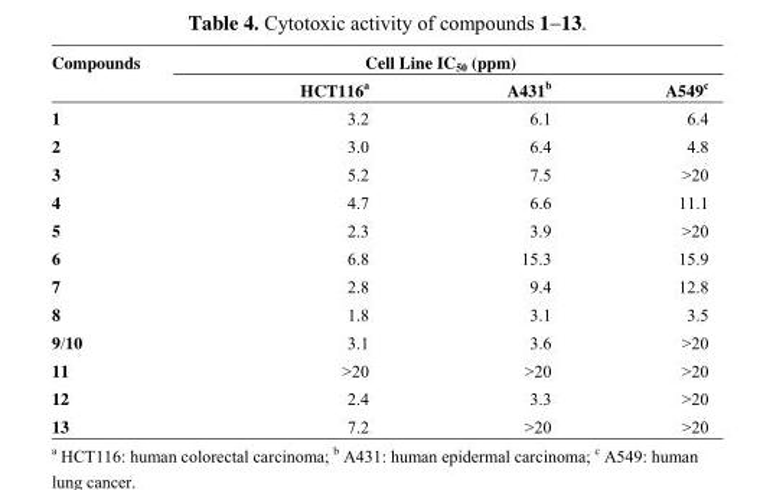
<table><thead><tr><td rowspan="2">Compounds</td><td colspan="3">Cell Line IC<sub>50</sub> (ppm)</td></tr><tr><td>HCT116<sup>a</sup></td><td>A431<sup>b</sup></td><td>A549<sup>c</sup></td></tr></thead><tbody><tr><td>1</td><td>3.2</td><td>6.1</td><td>6.4</td></tr><tr><td>2</td><td>3.0</td><td>6.4</td><td>4.8</td></tr><tr><td>3</td><td>5.2</td><td>7.5</td><td>&gt;20</td></tr><tr><td>4</td><td>4.7</td><td>6.6</td><td>11.1</td></tr><tr><td>5</td><td>2.3</td><td>3.9</td><td>&gt;20</td></tr><tr><td>6</td><td>6.8</td><td>15.3</td><td>15.9</td></tr><tr><td>7</td><td>2.8</td><td>9.4</td><td>12.8</td></tr><tr><td>8</td><td>1.8</td><td>3.1</td><td>3.5</td></tr><tr><td>9/10</td><td>3.1</td><td>3.6</td><td>&gt;20</td></tr><tr><td>11</td><td>&gt;20</td><td>&gt;20</td><td>&gt;20</td></tr><tr><td>12</td><td>2.4</td><td>3.3</td><td>&gt;20</td></tr><tr><td>13</td><td>7.2</td><td>&gt;20</td><td>&gt;20</td></tr></tbody></table>